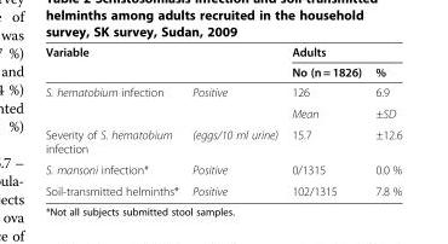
<table><thead><tr><td rowspan="2" colspan="2">Variable</td><td colspan="2">Adults</td></tr><tr><td rowspan="2">No (n = 1826) 126</td><td rowspan="2">% 6.9</td></tr><tr><td>S. hematobium infection</td><td>Positive</td></tr></thead><tbody><tr><td></td><td></td><td>Mean</td><td>±SD</td></tr><tr><td>Severity of S. hematobium infection</td><td>(eggs/10 ml urine)</td><td>15.7</td><td>±12.6</td></tr><tr><td>S. mansoni infection*</td><td>Positive</td><td>0/1315</td><td>0.0 %</td></tr><tr><td>Soil-transmitted helminths*</td><td>Positive</td><td>102/1315</td><td>7.8 %</td></tr></tbody></table>